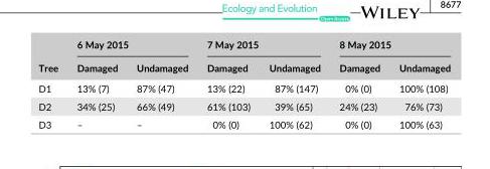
<table><thead><tr><td rowspan="2">Tree</td><td colspan="2">6 May 2015</td><td colspan="2">7 May 2015</td><td colspan="2">8 May 2015</td></tr><tr><td>Damaged</td><td>Undamaged</td><td>Damaged</td><td>Undamaged</td><td>Damaged</td><td>Undamaged</td></tr></thead><tbody><tr><td>D1</td><td>13% (7)</td><td>87% (47)</td><td>13% (22)</td><td>87% (147)</td><td>0% (0)</td><td>100% (108)</td></tr><tr><td>D2</td><td>34% (25)</td><td>66% (49)</td><td>61% (103)</td><td>39% (65)</td><td>24% (23)</td><td>76% (73)</td></tr><tr><td>D3</td><td>–</td><td>–</td><td>0% (0)</td><td>100% (62)</td><td>0% (0)</td><td>100% (63)</td></tr></tbody></table>